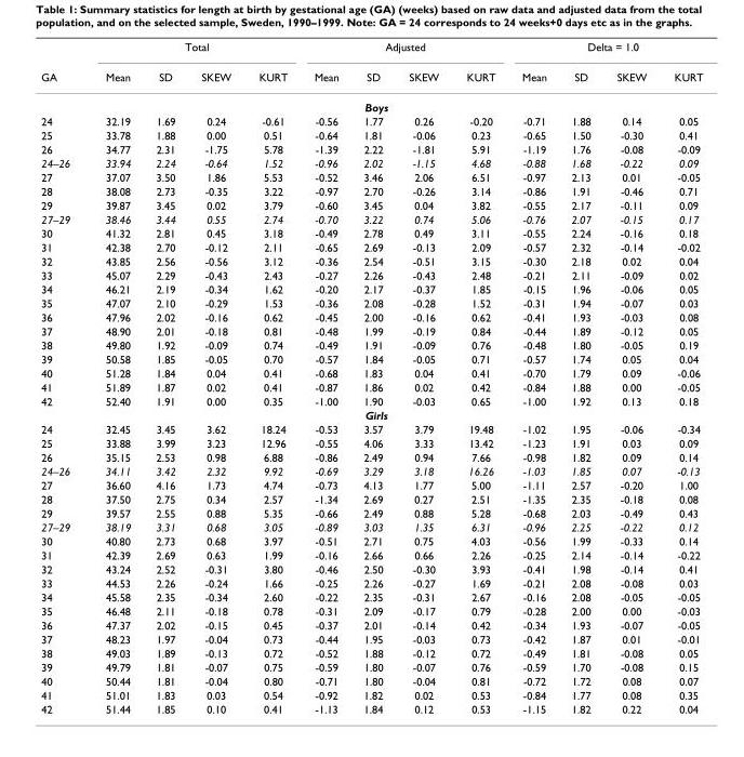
<table><thead><tr><td rowspan="2">GA</td><td colspan="4">Total</td><td colspan="4">Adjusted</td><td colspan="4">Delta = 1.0</td></tr><tr><td>Mean</td><td>SD</td><td>SKEW</td><td>KURT</td><td>Mean</td><td>SD</td><td>SKEW</td><td>KURT</td><td>Mean</td><td>SD</td><td>SKEW</td><td>KURT</td></tr></thead><tbody><tr><td colspan="13">Boys</td></tr><tr><td>24</td><td>32.19</td><td>1.69</td><td>0.24</td><td>-0.61</td><td>-0.56</td><td>1.77</td><td>0.26</td><td>-0.20</td><td>-0.71</td><td>1.88</td><td>0.14</td><td>0.05</td></tr><tr><td>25</td><td>33.78</td><td>1.88</td><td>0.00</td><td>0.51</td><td>-0.64</td><td>1.81</td><td>-0.06</td><td>0.23</td><td>-0.65</td><td>1.50</td><td>-0.30</td><td>0.41</td></tr><tr><td>26</td><td>34.77</td><td>2.31</td><td>-1.75</td><td>5.78</td><td>-1.39</td><td>2.22</td><td>-1.81</td><td>5.91</td><td>-1.19</td><td>1.76</td><td>-0.08</td><td>-0.09</td></tr><tr><td>24–26</td><td>33.94</td><td>2.24</td><td>-0.64</td><td>1.52</td><td>-0.96</td><td>2.02</td><td>-1.15</td><td>4.68</td><td>-0.88</td><td>1.68</td><td>-0.22</td><td>0.09</td></tr><tr><td>27</td><td>37.07</td><td>3.50</td><td>1.86</td><td>5.53</td><td>-0.52</td><td>3.46</td><td>2.06</td><td>6.51</td><td>-0.97</td><td>2.13</td><td>0.01</td><td>-0.05</td></tr><tr><td>28</td><td>38.08</td><td>2.73</td><td>-0.35</td><td>3.22</td><td>-0.97</td><td>2.70</td><td>-0.26</td><td>3.14</td><td>-0.86</td><td>1.91</td><td>-0.46</td><td>0.71</td></tr><tr><td>29</td><td>39.87</td><td>3.45</td><td>0.02</td><td>3.79</td><td>-0.60</td><td>3.45</td><td>0.04</td><td>3.82</td><td>-0.55</td><td>2.17</td><td>-0.11</td><td>0.09</td></tr><tr><td>27–29</td><td>38.46</td><td>3.44</td><td>0.55</td><td>2.74</td><td>-0.70</td><td>3.22</td><td>0.74</td><td>5.06</td><td>-0.76</td><td>2.07</td><td>-0.15</td><td>0.17</td></tr><tr><td>30</td><td>41.32</td><td>2.81</td><td>0.45</td><td>3.18</td><td>-0.49</td><td>2.78</td><td>0.49</td><td>3.11</td><td>-0.55</td><td>2.24</td><td>-0.16</td><td>0.18</td></tr><tr><td>31</td><td>42.38</td><td>2.70</td><td>-0.12</td><td>2.11</td><td>-0.65</td><td>2.69</td><td>-0.13</td><td>2.09</td><td>-0.57</td><td>2.32</td><td>-0.14</td><td>-0.02</td></tr><tr><td>32</td><td>43.85</td><td>2.56</td><td>-0.56</td><td>3.12</td><td>-0.36</td><td>2.54</td><td>-0.51</td><td>3.15</td><td>-0.30</td><td>2.18</td><td>0.02</td><td>0.04</td></tr><tr><td>33</td><td>45.07</td><td>2.29</td><td>-0.43</td><td>2.43</td><td>-0.27</td><td>2.26</td><td>-0.43</td><td>2.48</td><td>-0.21</td><td>2.11</td><td>-0.09</td><td>0.02</td></tr><tr><td>34</td><td>46.21</td><td>2.19</td><td>-0.34</td><td>1.62</td><td>-0.20</td><td>2.17</td><td>-0.37</td><td>1.85</td><td>-0.15</td><td>1.96</td><td>-0.06</td><td>0.05</td></tr><tr><td>35</td><td>47.07</td><td>2.10</td><td>-0.29</td><td>1.53</td><td>-0.36</td><td>2.08</td><td>-0.28</td><td>1.52</td><td>-0.31</td><td>1.94</td><td>-0.07</td><td>0.03</td></tr><tr><td>36</td><td>47.96</td><td>2.02</td><td>-0.16</td><td>0.62</td><td>-0.45</td><td>2.00</td><td>-0.16</td><td>0.62</td><td>-0.41</td><td>1.93</td><td>-0.03</td><td>0.08</td></tr><tr><td>37</td><td>48.90</td><td>2.01</td><td>-0.18</td><td>0.81</td><td>-0.48</td><td>1.99</td><td>-0.19</td><td>0.84</td><td>-0.44</td><td>1.89</td><td>-0.12</td><td>0.05</td></tr><tr><td>38</td><td>49.80</td><td>1.92</td><td>-0.09</td><td>0.74</td><td>-0.49</td><td>1.91</td><td>-0.09</td><td>0.76</td><td>-0.48</td><td>1.80</td><td>-0.05</td><td>0.19</td></tr><tr><td>39</td><td>50.58</td><td>1.85</td><td>-0.05</td><td>0.70</td><td>-0.57</td><td>1.84</td><td>-0.05</td><td>0.71</td><td>-0.57</td><td>1.74</td><td>0.05</td><td>0.04</td></tr><tr><td>40</td><td>51.28</td><td>1.84</td><td>0.04</td><td>0.41</td><td>-0.68</td><td>1.83</td><td>0.04</td><td>0.41</td><td>-0.70</td><td>1.79</td><td>0.09</td><td>-0.06</td></tr><tr><td>41</td><td>51.89</td><td>1.87</td><td>0.02</td><td>0.41</td><td>-0.87</td><td>1.86</td><td>0.02</td><td>0.42</td><td>-0.84</td><td>1.88</td><td>0.00</td><td>-0.05</td></tr><tr><td>42</td><td>52.40</td><td>1.91</td><td>0.00</td><td>0.35</td><td>-1.00</td><td>1.90</td><td>-0.03</td><td>0.65</td><td>-1.00</td><td>1.92</td><td>0.13</td><td>0.18</td></tr><tr><td colspan="13">Girls</td></tr><tr><td>24</td><td>32.45</td><td>3.45</td><td>3.62</td><td>18.24</td><td>-0.53</td><td>3.57</td><td>3.79</td><td>19.48</td><td>-1.02</td><td>1.95</td><td>-0.06</td><td>-0.34</td></tr><tr><td>25</td><td>33.88</td><td>3.99</td><td>3.23</td><td>12.96</td><td>-0.55</td><td>4.06</td><td>3.33</td><td>13.42</td><td>-1.23</td><td>1.91</td><td>0.03</td><td>0.09</td></tr><tr><td>26</td><td>35.15</td><td>2.53</td><td>0.98</td><td>6.88</td><td>-0.86</td><td>2.49</td><td>0.94</td><td>7.66</td><td>-0.98</td><td>1.82</td><td>0.09</td><td>0.14</td></tr><tr><td>24–26</td><td>34.11</td><td>3.42</td><td>2.32</td><td>9.92</td><td>-0.69</td><td>3.29</td><td>3.18</td><td>16.26</td><td>-1.03</td><td>1.85</td><td>0.07</td><td>-0.13</td></tr><tr><td>27</td><td>36.60</td><td>4.16</td><td>1.73</td><td>4.74</td><td>-0.73</td><td>4.13</td><td>1.77</td><td>5.00</td><td>-1.11</td><td>2.57</td><td>-0.20</td><td>1.00</td></tr><tr><td>28</td><td>37.50</td><td>2.75</td><td>0.34</td><td>2.57</td><td>-1.34</td><td>2.69</td><td>0.27</td><td>2.51</td><td>-1.35</td><td>2.35</td><td>-0.18</td><td>0.08</td></tr><tr><td>29</td><td>39.57</td><td>2.55</td><td>0.88</td><td>5.35</td><td>-0.66</td><td>2.49</td><td>0.88</td><td>5.28</td><td>-0.68</td><td>2.03</td><td>-0.49</td><td>0.43</td></tr><tr><td>27–29</td><td>38.19</td><td>3.31</td><td>0.68</td><td>3.05</td><td>-0.89</td><td>3.03</td><td>1.35</td><td>6.31</td><td>-0.96</td><td>2.25</td><td>-0.22</td><td>0.12</td></tr><tr><td>30</td><td>40.80</td><td>2.73</td><td>0.68</td><td>3.97</td><td>-0.51</td><td>2.71</td><td>0.75</td><td>4.03</td><td>-0.56</td><td>1.99</td><td>-0.33</td><td>0.14</td></tr><tr><td>31</td><td>42.39</td><td>2.69</td><td>0.63</td><td>1.99</td><td>-0.16</td><td>2.66</td><td>0.66</td><td>2.26</td><td>-0.25</td><td>2.14</td><td>-0.14</td><td>-0.22</td></tr><tr><td>32</td><td>43.24</td><td>2.52</td><td>-0.31</td><td>3.80</td><td>-0.46</td><td>2.50</td><td>-0.30</td><td>3.93</td><td>-0.41</td><td>1.98</td><td>-0.14</td><td>0.41</td></tr><tr><td>33</td><td>44.53</td><td>2.26</td><td>-0.24</td><td>1.66</td><td>-0.25</td><td>2.26</td><td>-0.27</td><td>1.69</td><td>-0.21</td><td>2.08</td><td>-0.08</td><td>0.03</td></tr><tr><td>34</td><td>45.58</td><td>2.35</td><td>-0.34</td><td>2.60</td><td>-0.22</td><td>2.35</td><td>-0.31</td><td>2.67</td><td>-0.16</td><td>2.08</td><td>-0.05</td><td>-0.05</td></tr><tr><td>35</td><td>46.48</td><td>2.11</td><td>-0.18</td><td>0.78</td><td>-0.31</td><td>2.09</td><td>-0.17</td><td>0.79</td><td>-0.28</td><td>2.00</td><td>0.00</td><td>-0.03</td></tr><tr><td>36</td><td>47.37</td><td>2.02</td><td>-0.15</td><td>0.45</td><td>-0.37</td><td>2.01</td><td>-0.14</td><td>0.42</td><td>-0.34</td><td>1.93</td><td>-0.07</td><td>-0.05</td></tr><tr><td>37</td><td>48.23</td><td>1.97</td><td>-0.04</td><td>0.73</td><td>-0.44</td><td>1.95</td><td>-0.03</td><td>0.73</td><td>-0.42</td><td>1.87</td><td>0.01</td><td>-0.01</td></tr><tr><td>38</td><td>49.03</td><td>1.89</td><td>-0.13</td><td>0.72</td><td>-0.52</td><td>1.88</td><td>-0.12</td><td>0.72</td><td>-0.49</td><td>1.81</td><td>-0.08</td><td>0.05</td></tr><tr><td>39</td><td>49.79</td><td>1.81</td><td>-0.07</td><td>0.75</td><td>-0.59</td><td>1.80</td><td>-0.07</td><td>0.76</td><td>-0.59</td><td>1.70</td><td>-0.08</td><td>0.15</td></tr><tr><td>40</td><td>50.44</td><td>1.81</td><td>-0.04</td><td>0.80</td><td>-0.71</td><td>1.80</td><td>-0.04</td><td>0.81</td><td>-0.72</td><td>1.72</td><td>0.08</td><td>0.07</td></tr><tr><td>41</td><td>51.01</td><td>1.83</td><td>0.03</td><td>0.54</td><td>-0.92</td><td>1.82</td><td>0.02</td><td>0.53</td><td>-0.84</td><td>1.77</td><td>0.08</td><td>0.35</td></tr><tr><td>42</td><td>51.44</td><td>1.85</td><td>0.10</td><td>0.41</td><td>-1.13</td><td>1.84</td><td>0.12</td><td>0.53</td><td>-1.15</td><td>1.82</td><td>0.22</td><td>0.04</td></tr></tbody></table>